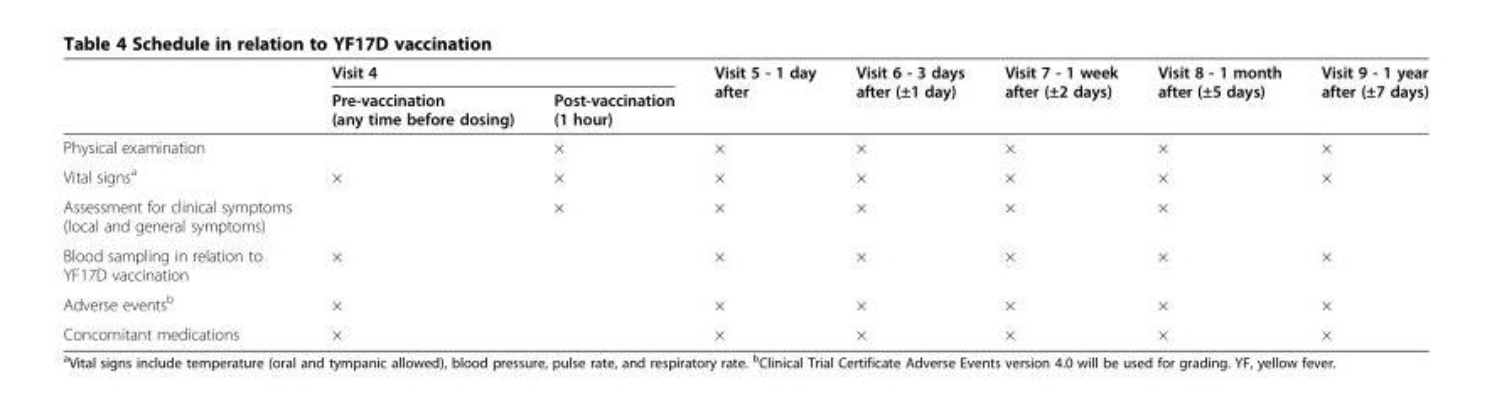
<table><thead><tr><td rowspan="2"></td><td colspan="2">Visit 4</td><td rowspan="2">Visit 5 - 1 day after</td><td rowspan="2">Visit 6 - 3 days after (±1 day)</td><td rowspan="2">Visit 7 - 1 week after (±2 days)</td><td rowspan="2">Visit 8 - 1 month after (±5 days)</td><td rowspan="2">Visit 9 - 1 year after (±7 days)</td></tr><tr><td>Pre-vaccination (any time before dosing)</td><td>Post-vaccination (1 hour)</td></tr></thead><tbody><tr><td>Physical examination</td><td></td><td>×</td><td>×</td><td>×</td><td>×</td><td>×</td><td>×</td></tr><tr><td>Vital signs<sup>a</sup></td><td>×</td><td>×</td><td>×</td><td>×</td><td>×</td><td>×</td><td>×</td></tr><tr><td>Assessment for clinical symptoms (local and general symptoms)</td><td></td><td>×</td><td>×</td><td>×</td><td>×</td><td>×</td><td></td></tr><tr><td>Blood sampling in relation to YF17D vaccination</td><td>×</td><td></td><td>×</td><td>×</td><td>×</td><td>×</td><td>×</td></tr><tr><td>Adverse events<sup>b</sup></td><td>×</td><td></td><td>×</td><td>×</td><td>×</td><td>×</td><td>×</td></tr><tr><td>Concomitant medications</td><td>×</td><td></td><td>×</td><td>×</td><td>×</td><td>×</td><td>×</td></tr></tbody></table>